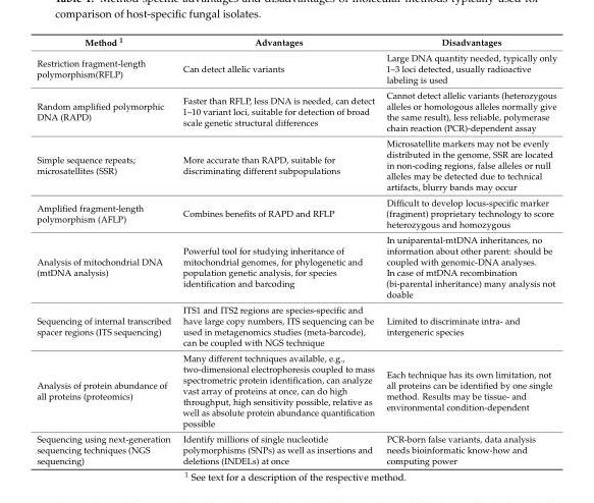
<table><thead><tr><td>Method <sup>1</sup></td><td>Advantages</td><td>Disadvantages</td></tr></thead><tbody><tr><td>Restriction fragment-length polymorphism(RFLP)</td><td>Can detect allelic variants</td><td>Large DNA quantity needed, typically only 1–3 loci detected, usually radioactive labeling is used</td></tr><tr><td>Random amplified polymorphic DNA (RAPD)</td><td>Faster than RFLP, less DNA is needed, can detect 1–10 variant loci, suitable for detection of broad scale genetic structural differences</td><td>Cannot detect allelic variants (heterozygous alleles or homologous alleles normally give the same result), less reliable, polymerase chain reaction (PCR)-dependent assay</td></tr><tr><td>Simple sequence repeats; microsatellites (SSR)</td><td>More accurate than RAPD, suitable for discriminating different subpopulations</td><td>Microsatellite markers may not be evenly distributed in the genome, SSR are located in non-coding regions, false alleles or null alleles may be detected due to technical artifacts, blurry bands may occur</td></tr><tr><td>Amplified fragment-length polymorphism (AFLP)</td><td>Combines benefits of RAPD and RFLP</td><td>Difficult to develop locus-specific marker (fragment) proprietary technology to score heterozygous and homozygous</td></tr><tr><td>Analysis of mitochondrial DNA (mtDNA analysis)</td><td>Powerful tool for studying inheritance of mitochondrial genomes, for phylogenetic and population genetic analysis, for species identification and barcoding</td><td>In uniparental-mtDNA inheritances, no information about other parent: should be coupled with genomic-DNA analyses. In case of mtDNA recombination (bi-parental inheritance) many analysis not doable</td></tr><tr><td>Sequencing of internal transcribed spacer regions (ITS sequencing)</td><td>ITS1 and ITS2 regions are species-specific and have large copy numbers, ITS sequencing can be used in metagenomics studies (meta-barcode), can be coupled with NGS technique</td><td>Limited to discriminate intra- and intergeneric species</td></tr><tr><td>Analysis of protein abundance of all proteins (proteomics)</td><td>Many different techniques available, e.g., two-dimensional electrophoresis coupled to mass spectrometric protein identification, can analyze vast array of proteins at once, can do high throughput, high sensitivity possible, relative as well as absolute protein abundance quantification possible</td><td>Each technique has its own limitation, not all proteins can be identified by one single method. Results may be tissue- and environmental condition-dependent</td></tr><tr><td>Sequencing using next-generation sequencing techniques (NGS sequencing)</td><td>Identify millions of single nucleotide polymorphisms (SNPs) as well as insertions and deletions (INDELs) at once</td><td>PCR-born false variants, data analysis needs bioinformatic know-how and computing power</td></tr></tbody></table>